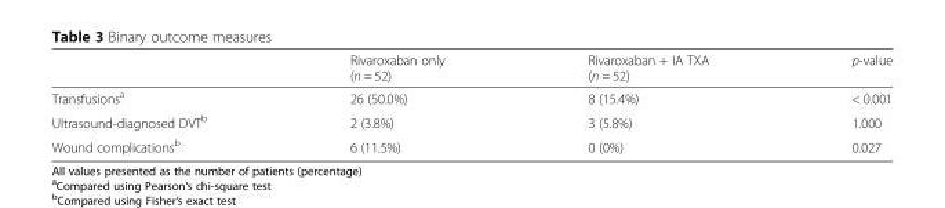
<table><thead><tr><td></td><td>Rivaroxaban only (n = 52)</td><td>Rivaroxaban + IA TXA (n = 52)</td><td>p-value</td></tr></thead><tbody><tr><td>Transfusions<sup>a</sup></td><td>26 (50.0%)</td><td>8 (15.4%)</td><td>&lt; 0.001</td></tr><tr><td>Ultrasound-diagnosed DVT<sup>b</sup></td><td>2 (3.8%)</td><td>3 (5.8%)</td><td>1.000</td></tr><tr><td>Wound complications<sup>b</sup></td><td>6 (11.5%)</td><td>0 (0%)</td><td>0.027</td></tr></tbody></table>